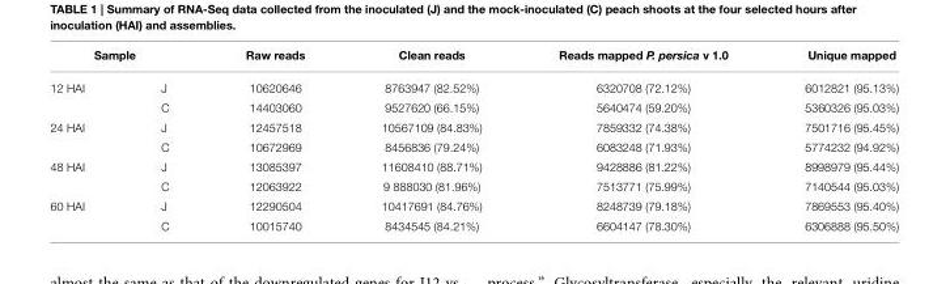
<table><thead><tr><td colspan="2">Sample</td><td rowspan="2">Raw reads 10620646</td><td rowspan="2">Clean reads 8763947 (82.52%)</td><td rowspan="2">Reads mapped P. persica v 1.0 6320708 (72.12%)</td><td rowspan="2">Unique mapped 6012821 (95.13%)</td></tr><tr><td>12 HAI</td><td>J</td></tr></thead><tbody><tr><td></td><td>C</td><td>14403060</td><td>9527620 (66.15%)</td><td>5640474 (59.20%)</td><td>5360326 (95.03%)</td></tr><tr><td rowspan="2">24 HAI</td><td>J</td><td>12457518</td><td>10567109 (84.83%)</td><td>7859332 (74.38%)</td><td>7501716 (95.45%)</td></tr><tr><td>C</td><td>10672969</td><td>8456836 (79.24%)</td><td>6083248 (71.93%)</td><td>5774232 (94.92%)</td></tr><tr><td rowspan="2">48 HAI</td><td>J</td><td>13085397</td><td>11608410 (88.71%)</td><td>9428886 (81.22%)</td><td>8998979 (95.44%)</td></tr><tr><td>C</td><td>12063922</td><td>9 888030 (81.96%)</td><td>7513771 (75.99%)</td><td>7140544 (95.03%)</td></tr><tr><td rowspan="2">60 HAI</td><td>J</td><td>12290504</td><td>10417691 (84.76%)</td><td>8248739 (79.18%)</td><td>7869553 (95.40%)</td></tr><tr><td>C</td><td>10015740</td><td>8434545 (84.21%)</td><td>6604147 (78.30%)</td><td>6306888 (95.50%)</td></tr></tbody></table>